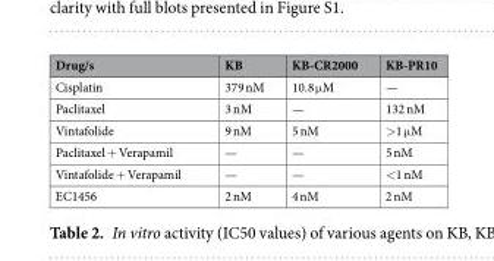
<table><thead><tr><td>Drug/s</td><td>KB</td><td>KB-CR2000</td><td>KB-PR10</td></tr></thead><tbody><tr><td>Cisplatin</td><td>379 nM</td><td>10.8 μM</td><td>—</td></tr><tr><td>Paclitaxel</td><td>3 nM</td><td>—</td><td>132 nM</td></tr><tr><td>Vintafolide</td><td>9 nM</td><td>5 nM</td><td>&gt;1 μM</td></tr><tr><td>Paclitaxel + Verapamil</td><td>—</td><td>—</td><td>5 nM</td></tr><tr><td>Vintafolide + Verapamil</td><td>—</td><td>—</td><td>&lt;1 nM</td></tr><tr><td>EC1456</td><td>2 nM</td><td>4 nM</td><td>2 nM</td></tr></tbody></table>